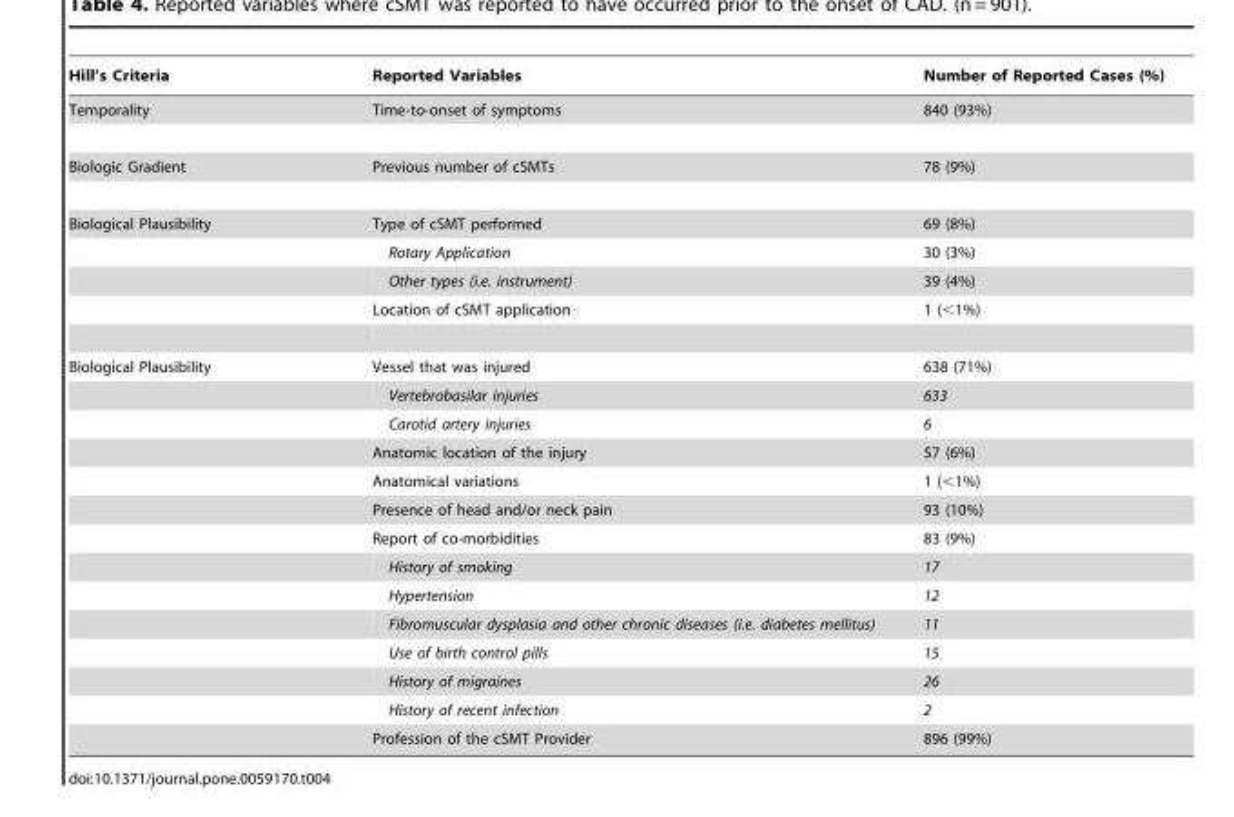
<table><thead><tr><td>Hill’s Criteria</td><td>Reported Variables</td><td>Number of Reported Cases (%)</td></tr></thead><tbody><tr><td>Temporality</td><td>Time-to-onset of symptoms</td><td>840 (93%)</td></tr><tr><td>Biologic Gradient</td><td>Previous number of cSMTs</td><td>78 (9%)</td></tr><tr><td rowspan="4">Biological Plausibility</td><td>Type of cSMT performed</td><td>69 (8%)</td></tr><tr><td>Rotary Application</td><td>30 (3%)</td></tr><tr><td>Other types (i.e. instrument)</td><td>39 (4%)</td></tr><tr><td>Location of cSMT application</td><td>1 (&lt;1%)</td></tr><tr><td rowspan="14">Biological Plausibility</td><td>Vessel that was injured</td><td>638 (71%)</td></tr><tr><td>Vertebrobasilar injuries</td><td>633</td></tr><tr><td>Carotid artery injuries</td><td>6</td></tr><tr><td>Anatomic location of the injury</td><td>57 (6%)</td></tr><tr><td>Anatomical variations</td><td>1 (&lt;1%)</td></tr><tr><td>Presence of head and/or neck pain</td><td>93 (10%)</td></tr><tr><td>Report of co-morbidities</td><td>83 (9%)</td></tr><tr><td>History of smoking</td><td>17</td></tr><tr><td>Hypertension</td><td>12</td></tr><tr><td>Fibromuscular dysplasia and other chronic diseases (i.e. diabetes mellitus)</td><td>11</td></tr><tr><td>Use of birth control pills</td><td>15</td></tr><tr><td>History of migraines</td><td>26</td></tr><tr><td>History of recent infection</td><td>2</td></tr><tr><td>Profession of the cSMT Provider</td><td>896 (99%)</td></tr></tbody></table>